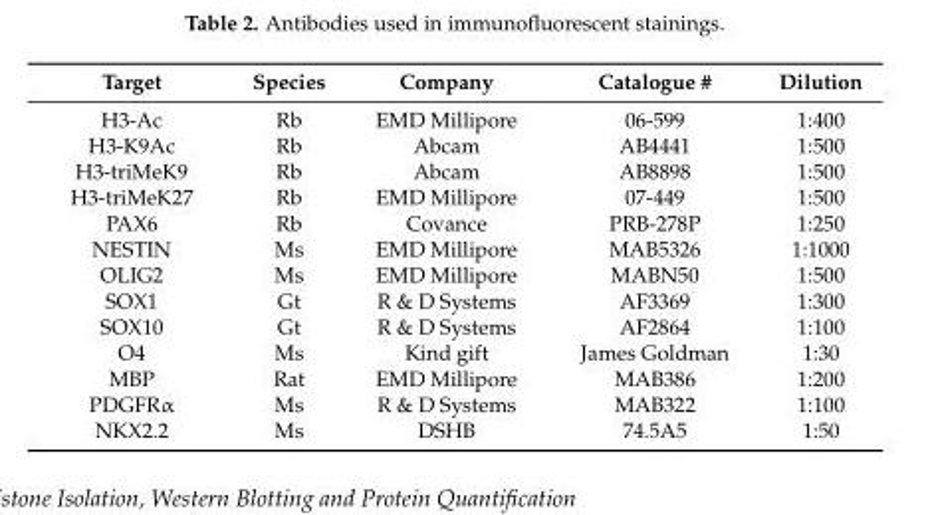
<table><thead><tr><td>Target</td><td>Species</td><td>Company</td><td>Catalogue #</td><td>Dilution</td></tr></thead><tbody><tr><td>H3-Ac</td><td>Rb</td><td>EMD Millipore</td><td>06-599</td><td>1:400</td></tr><tr><td>H3-K9Ac</td><td>Rb</td><td>Abcam</td><td>AB4441</td><td>1:500</td></tr><tr><td>H3-triMeK9</td><td>Rb</td><td>Abcam</td><td>AB8898</td><td>1:500</td></tr><tr><td>H3-triMeK27</td><td>Rb</td><td>EMD Millipore</td><td>07-449</td><td>1:500</td></tr><tr><td>PAX6</td><td>Rb</td><td>Covance</td><td>PRB-278P</td><td>1:250</td></tr><tr><td>NESTIN</td><td>Ms</td><td>EMD Millipore</td><td>MAB5326</td><td>1:1000</td></tr><tr><td>OLIG2</td><td>Ms</td><td>EMD Millipore</td><td>MABN50</td><td>1:500</td></tr><tr><td>SOX1</td><td>Gt</td><td>R &amp; D Systems</td><td>AF3369</td><td>1:300</td></tr><tr><td>SOX10</td><td>Gt</td><td>R &amp; D Systems</td><td>AF2864</td><td>1:100</td></tr><tr><td>O4</td><td>Ms</td><td>Kind gift</td><td>James Goldman</td><td>1:30</td></tr><tr><td>MBP</td><td>Rat</td><td>EMD Millipore</td><td>MAB386</td><td>1:200</td></tr><tr><td>PDGFRα</td><td>Ms</td><td>R &amp; D Systems</td><td>MAB322</td><td>1:100</td></tr><tr><td>NKX2.2</td><td>Ms</td><td>DSHB</td><td>74.5A5</td><td>1:50</td></tr></tbody></table>